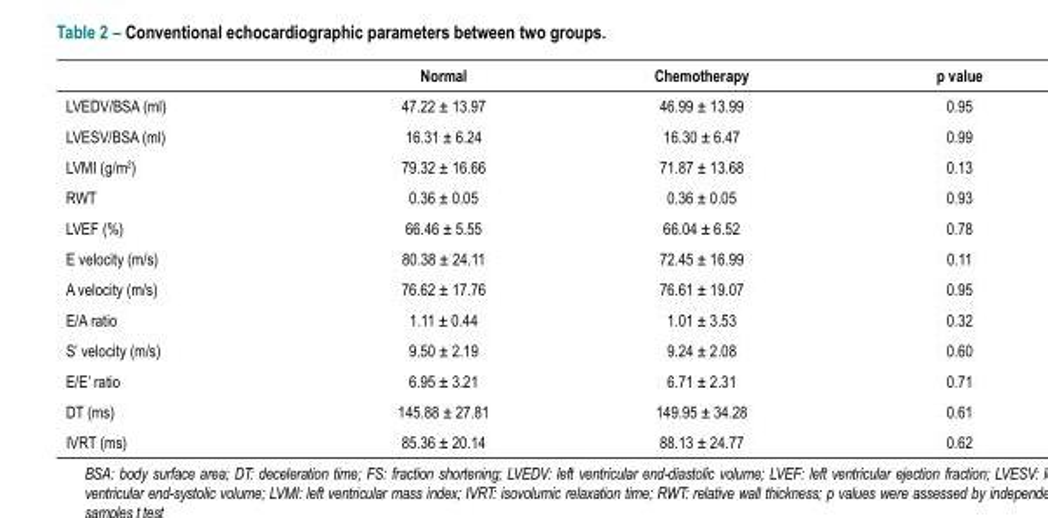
<table><thead><tr><td></td><td>Normal</td><td>Chemotherapy</td><td>p value</td></tr></thead><tbody><tr><td>LVEDV/BSA (ml)</td><td>47.22 ± 13.97</td><td>46.99 ± 13.99</td><td>0.95</td></tr><tr><td>LVESV/BSA (ml)</td><td>16.31 ± 6.24</td><td>16.30 ± 6.47</td><td>0.99</td></tr><tr><td>LVMI (g/m<sup>2</sup>)</td><td>79.32 ± 16.66</td><td>71.87 ± 13.68</td><td>0.13</td></tr><tr><td>RWT</td><td>0.36 ± 0.05</td><td>0.36 ± 0.05</td><td>0.93</td></tr><tr><td>LVEF (%)</td><td>66.46 ± 5.55</td><td>66.04 ± 6.52</td><td>0.78</td></tr><tr><td>E velocity (m/s)</td><td>80.38 ± 24.11</td><td>72.45 ± 16.99</td><td>0.11</td></tr><tr><td>A velocity (m/s)</td><td>76.62 ± 17.76</td><td>76.61 ± 19.07</td><td>0.95</td></tr><tr><td>E/A ratio</td><td>1.11 ± 0.44</td><td>1.01 ± 3.53</td><td>0.32</td></tr><tr><td>S’ velocity (m/s)</td><td>9.50 ± 2.19</td><td>9.24 ± 2.08</td><td>0.60</td></tr><tr><td>E/E’ ratio</td><td>6.95 ± 3.21</td><td>6.71 ± 2.31</td><td>0.71</td></tr><tr><td>DT (ms)</td><td>145.88 ± 27.81</td><td>149.95 ± 34.28</td><td>0.61</td></tr><tr><td>IVRT (ms)</td><td>85.36 ± 20.14</td><td>88.13 ± 24.77</td><td>0.62</td></tr></tbody></table>